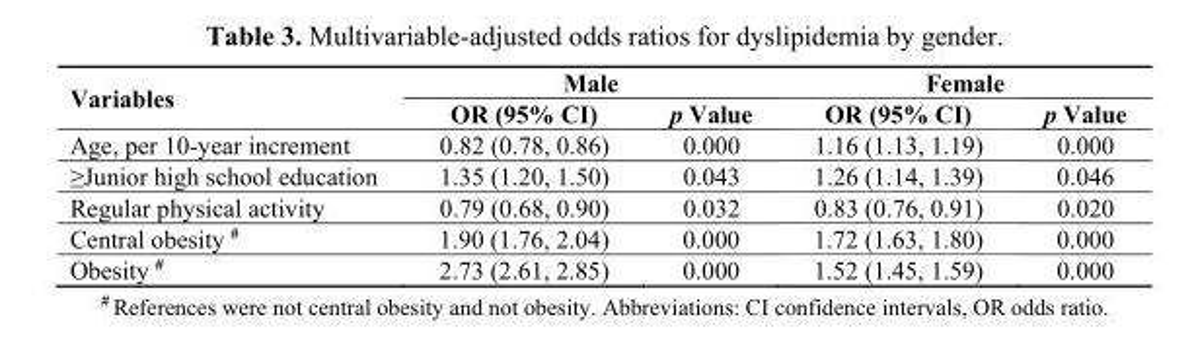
<table><thead><tr><td rowspan="2">Variables</td><td colspan="2">Male</td><td colspan="2">Female</td></tr><tr><td>OR (95% CI)</td><td>p Value</td><td>OR (95% CI)</td><td>p Value</td></tr></thead><tbody><tr><td>Age, per 10-year increment</td><td>0.82 (0.78, 0.86)</td><td>0.000</td><td>1.16 (1.13, 1.19)</td><td>0.000</td></tr><tr><td>≥Junior high school education</td><td>1.35 (1.20, 1.50)</td><td>0.043</td><td>1.26 (1.14, 1.39)</td><td>0.046</td></tr><tr><td>Regular physical activity</td><td>0.79 (0.68, 0.90)</td><td>0.032</td><td>0.83 (0.76, 0.91)</td><td>0.020</td></tr><tr><td>Central obesity <sup>#</sup></td><td>1.90 (1.76, 2.04)</td><td>0.000</td><td>1.72 (1.63, 1.80)</td><td>0.000</td></tr><tr><td>Obesity <sup>#</sup></td><td>2.73 (2.61, 2.85)</td><td>0.000</td><td>1.52 (1.45, 1.59)</td><td>0.000</td></tr></tbody></table>